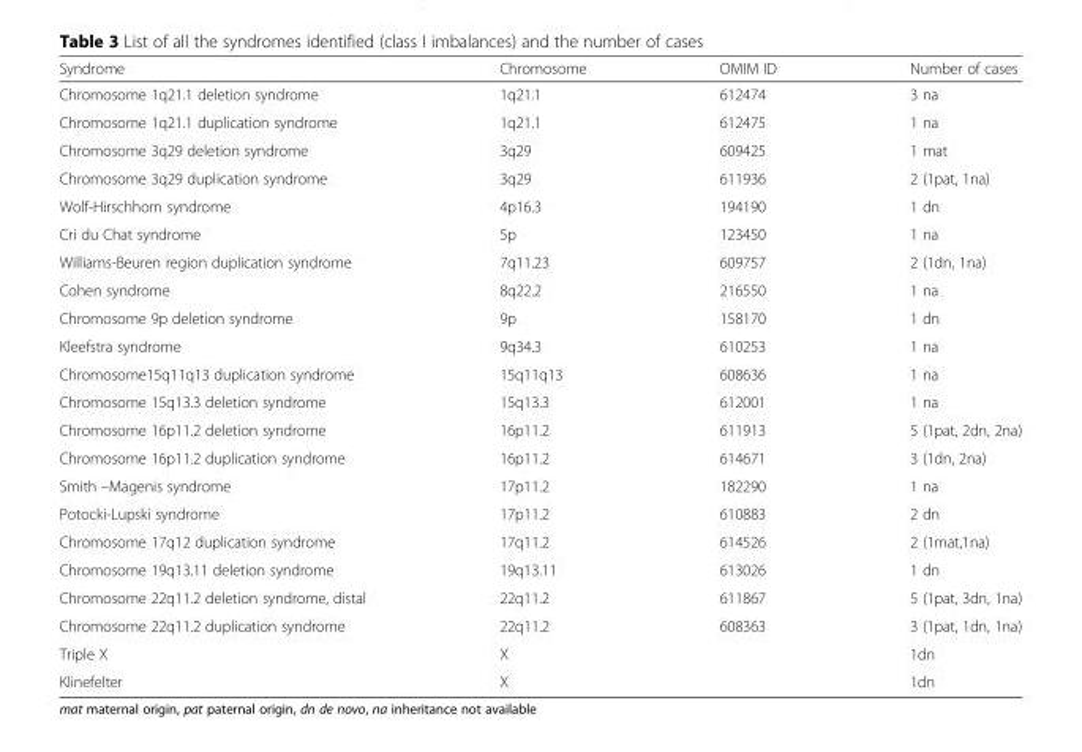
<table><thead><tr><td>Syndrome</td><td>Chromosome</td><td>OMIM ID</td><td>Number of cases</td></tr></thead><tbody><tr><td>Chromosome 1q21.1 deletion syndrome</td><td>1q21.1</td><td>612474</td><td>3 na</td></tr><tr><td>Chromosome 1q21.1 duplication syndrome</td><td>1q21.1</td><td>612475</td><td>1 na</td></tr><tr><td>Chromosome 3q29 deletion syndrome</td><td>3q29</td><td>609425</td><td>1 mat</td></tr><tr><td>Chromosome 3q29 duplication syndrome</td><td>3q29</td><td>611936</td><td>2 (1pat, 1na)</td></tr><tr><td>Wolf-Hirschhorn syndrome</td><td>4p16.3</td><td>194190</td><td>1 dn</td></tr><tr><td>Cri du Chat syndrome</td><td>5p</td><td>123450</td><td>1 na</td></tr><tr><td>Williams-Beuren region duplication syndrome</td><td>7q11.23</td><td>609757</td><td>2 (1dn, 1na)</td></tr><tr><td>Cohen syndrome</td><td>8q22.2</td><td>216550</td><td>1 na</td></tr><tr><td>Chromosome 9p deletion syndrome</td><td>9p</td><td>158170</td><td>1 dn</td></tr><tr><td>Kleefstra syndrome</td><td>9q34.3</td><td>610253</td><td>1 na</td></tr><tr><td>Chromosome15q11q13 duplication syndrome</td><td>15q11q13</td><td>608636</td><td>1 na</td></tr><tr><td>Chromosome 15q13.3 deletion syndrome</td><td>15q13.3</td><td>612001</td><td>1 na</td></tr><tr><td>Chromosome 16p11.2 deletion syndrome</td><td>16p11.2</td><td>611913</td><td>5 (1pat, 2dn, 2na)</td></tr><tr><td>Chromosome 16p11.2 duplication syndrome</td><td>16p11.2</td><td>614671</td><td>3 (1dn, 2na)</td></tr><tr><td>Smith –Magenis syndrome</td><td>17p11.2</td><td>182290</td><td>1 na</td></tr><tr><td>Potocki-Lupski syndrome</td><td>17p11.2</td><td>610883</td><td>2 dn</td></tr><tr><td>Chromosome 17q12 duplication syndrome</td><td>17q11.2</td><td>614526</td><td>2 (1mat,1na)</td></tr><tr><td>Chromosome 19q13.11 deletion syndrome</td><td>19q13.11</td><td>613026</td><td>1 dn</td></tr><tr><td>Chromosome 22q11.2 deletion syndrome, distal</td><td>22q11.2</td><td>611867</td><td>5 (1pat, 3dn, 1na)</td></tr><tr><td>Chromosome 22q11.2 duplication syndrome</td><td>22q11.2</td><td>608363</td><td>3 (1pat, 1dn, 1na)</td></tr><tr><td>Triple X</td><td>X</td><td></td><td>1dn</td></tr><tr><td>Klinefelter</td><td>X</td><td></td><td>1dn</td></tr></tbody></table>